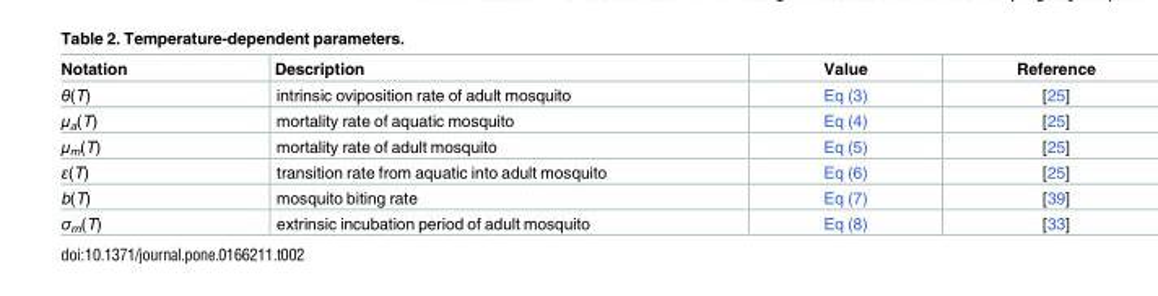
<table><thead><tr><td>Notation</td><td>Description</td><td>Value</td><td>Reference</td></tr></thead><tbody><tr><td>θ(T)</td><td>intrinsic oviposition rate of adult mosquito</td><td>Eq (3)</td><td>[25]</td></tr><tr><td>μ<sub>a</sub>(T)</td><td>mortality rate of aquatic mosquito</td><td>Eq (4)</td><td>[25]</td></tr><tr><td>μ<sub>m</sub>(T)</td><td>mortality rate of adult mosquito</td><td>Eq (5)</td><td>[25]</td></tr><tr><td>ε(T)</td><td>transition rate from aquatic into adult mosquito</td><td>Eq (6)</td><td>[25]</td></tr><tr><td>b(T)</td><td>mosquito biting rate</td><td>Eq (7)</td><td>[39]</td></tr><tr><td>σ<sub>m</sub>(T)</td><td>extrinsic incubation period of adult mosquito</td><td>Eq (8)</td><td>[33]</td></tr></tbody></table>